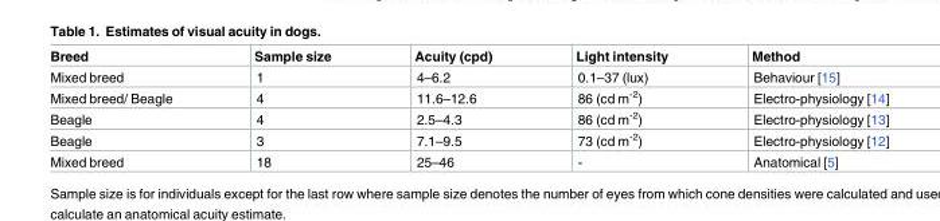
<table><thead><tr><td>Breed</td><td>Sample size</td><td>Acuity (cpd)</td><td>Light intensity</td><td>Method</td></tr></thead><tbody><tr><td>Mixed breed</td><td>1</td><td>4–6.2</td><td>0.1–37 (lux)</td><td>Behaviour [15]</td></tr><tr><td>Mixed breed/ Beagle</td><td>4</td><td>11.6–12.6</td><td>86 (cd m<sup>-2</sup>)</td><td>Electro-physiology [14]</td></tr><tr><td>Beagle</td><td>4</td><td>2.5–4.3</td><td>86 (cd m<sup>-2</sup>)</td><td>Electro-physiology [13]</td></tr><tr><td>Beagle</td><td>3</td><td>7.1–9.5</td><td>73 (cd m<sup>-2</sup>)</td><td>Electro-physiology [12]</td></tr><tr><td>Mixed breed</td><td>18</td><td>25–46</td><td>-</td><td>Anatomical [5]</td></tr></tbody></table>